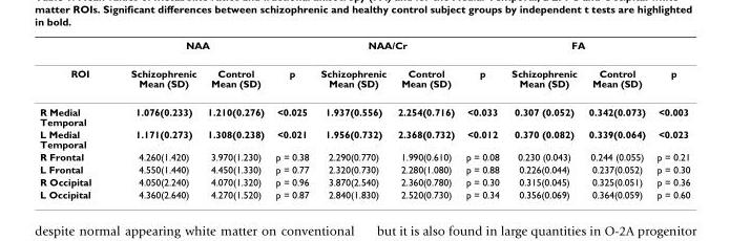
<table><thead><tr><td rowspan="2">ROI</td><td colspan="2">NAA</td><td rowspan="2">p</td><td colspan="2">NAA/Cr</td><td rowspan="2">p</td><td colspan="2">FA</td><td rowspan="2">p</td></tr><tr><td>Schizophrenic Mean (SD)</td><td>Control Mean (SD)</td><td>Schizophrenic Mean (SD)</td><td>Control Mean (SD)</td><td>Schizophrenic Mean (SD)</td><td>Control Mean (SD)</td></tr></thead><tbody><tr><td>R Medial Temporal</td><td>1.076(0.233)</td><td>1.210(0.276)</td><td>&lt;0.025</td><td>1.937(0.556)</td><td>2.254(0.716)</td><td>&lt;0.033</td><td>0.307 (0.052)</td><td>0.342(0.073)</td><td>&lt;0.003</td></tr><tr><td>L Medial Temporal</td><td>1.171(0.273)</td><td>1.308(0.238)</td><td>&lt;0.021</td><td>1.956(0.732)</td><td>2.368(0.732)</td><td>&lt;0.012</td><td>0.370 (0.082)</td><td>0.339(0.064)</td><td>&lt;0.023</td></tr><tr><td>R Frontal</td><td>4.260(1.420)</td><td>3.970(1.230)</td><td>p = 0.38</td><td>2.290(0.770)</td><td>1.990(0.610)</td><td>p = 0.08</td><td>0.230 (0.043)</td><td>0.244 (0.055)</td><td>p = 0.21</td></tr><tr><td>L Frontal</td><td>4.550(1.440)</td><td>4.450(1.330)</td><td>p = 0.77</td><td>2.320(0.730)</td><td>2.280(1.080)</td><td>p = 0.88</td><td>0.226(0.044)</td><td>0.237(0.052)</td><td>p = 0.30</td></tr><tr><td>R Occipital</td><td>4.050(2.240)</td><td>4.070(1.320)</td><td>p = 0.96</td><td>3.870(2.540)</td><td>2.360(0.780)</td><td>p = 0.30</td><td>0.315(0.045)</td><td>0.325(0.051)</td><td>p = 0.36</td></tr><tr><td>L Occipital</td><td>4.360(2.640)</td><td>4.270(1.520)</td><td>p = 0.87</td><td>2.840(1.830)</td><td>2.520(0.730)</td><td>p = 0.34</td><td>0.356(0.069)</td><td>0.364(0.059)</td><td>p = 0.60</td></tr></tbody></table>